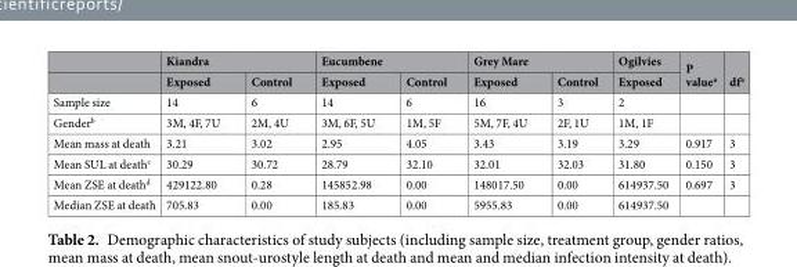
<table><thead><tr><td rowspan="2"></td><td colspan="2">Kiandra</td><td colspan="2">Eucumbene</td><td colspan="2">Grey Mare</td><td rowspan="2">Ogilvies Exposed</td><td rowspan="2">P value<sup>a</sup></td><td rowspan="2">df<sup>a</sup></td></tr><tr><td>Exposed</td><td>Control</td><td>Exposed</td><td>Control</td><td>Exposed</td><td>Control</td></tr></thead><tbody><tr><td>Sample size</td><td>14</td><td>6</td><td>14</td><td>6</td><td>16</td><td>3</td><td>2</td><td></td><td></td></tr><tr><td>Gender<sup>b</sup></td><td>3M, 4F, 7U</td><td>2M, 4U</td><td>3M, 6F, 5U</td><td>1M, 5F</td><td>5M, 7F, 4U</td><td>2F, 1U</td><td>1M, 1F</td><td></td><td></td></tr><tr><td>Mean mass at death</td><td>3.21</td><td>3.02</td><td>2.95</td><td>4.05</td><td>3.43</td><td>3.19</td><td>3.29</td><td>0.917</td><td>3</td></tr><tr><td>Mean SUL at death<sup>c</sup></td><td>30.29</td><td>30.72</td><td>28.79</td><td>32.10</td><td>32.01</td><td>32.03</td><td>31.80</td><td>0.150</td><td>3</td></tr><tr><td>Mean ZSE at death<sup>d</sup></td><td>429122.80</td><td>0.28</td><td>145852.98</td><td>0.00</td><td>148017.50</td><td>0.00</td><td>614937.50</td><td>0.697</td><td>3</td></tr><tr><td>Median ZSE at death</td><td>705.83</td><td>0.00</td><td>185.83</td><td>0.00</td><td>5955.83</td><td>0.00</td><td>614937.50</td><td></td><td></td></tr></tbody></table>